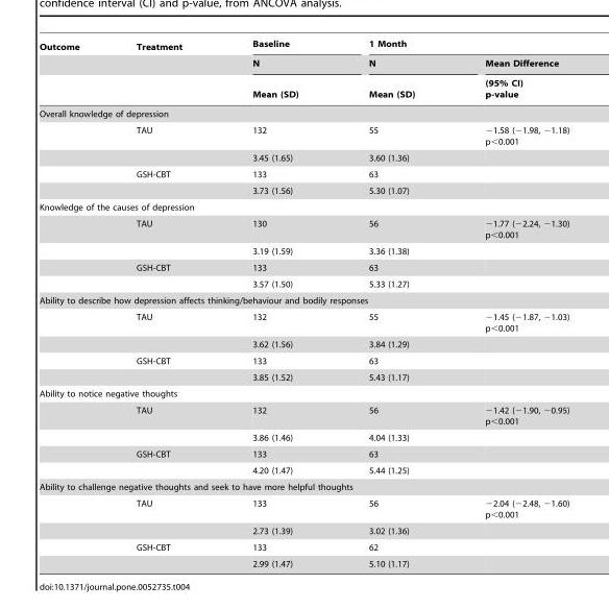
<table><thead><tr><td rowspan="3">Outcome</td><td rowspan="3">Treatment</td><td rowspan="3">Baseline N Mean (SD)</td><td colspan="2">1 Month</td></tr><tr><td rowspan="2">N Mean (SD)</td><td rowspan="2">Mean Difference (95% CI) p-value</td></tr><tr></tr></thead><tbody><tr><td colspan="5">Overall knowledge of depression</td></tr><tr><td></td><td>TAU</td><td>132</td><td>55</td><td>−1.58 (−1.98, −1.18) p&lt;0.001</td></tr><tr><td></td><td></td><td>3.45 (1.65)</td><td>3.60 (1.36)</td><td></td></tr><tr><td></td><td>GSH-CBT</td><td>133</td><td>63</td><td></td></tr><tr><td></td><td></td><td>3.73 (1.56)</td><td>5.30 (1.07)</td><td></td></tr><tr><td colspan="5">Knowledge of the causes of depression</td></tr><tr><td></td><td>TAU</td><td>130</td><td>56</td><td>−1.77 (−2.24, −1.30) p&lt;0.001</td></tr><tr><td></td><td></td><td>3.19 (1.59)</td><td>3.36 (1.38)</td><td></td></tr><tr><td></td><td>GSH-CBT</td><td>133</td><td>63</td><td></td></tr><tr><td></td><td></td><td>3.57 (1.50)</td><td>5.33 (1.27)</td><td></td></tr><tr><td colspan="5">Ability to describe how depression affects thinking/behaviour and bodily responses</td></tr><tr><td></td><td>TAU</td><td>132</td><td>55</td><td>−1.45 (−1.87, −1.03) p&lt;0.001</td></tr><tr><td></td><td></td><td>3.62 (1.56)</td><td>3.84 (1.29)</td><td></td></tr><tr><td></td><td>GSH-CBT</td><td>133</td><td>63</td><td></td></tr><tr><td></td><td></td><td>3.85 (1.52)</td><td>5.43 (1.17)</td><td></td></tr><tr><td colspan="5">Ability to notice negative thoughts</td></tr><tr><td></td><td>TAU</td><td>132</td><td>56</td><td>−1.42 (−1.90, −0.95) p&lt;0.001</td></tr><tr><td></td><td></td><td>3.86 (1.46)</td><td>4.04 (1.33)</td><td></td></tr><tr><td></td><td>GSH-CBT</td><td>133</td><td>63</td><td></td></tr><tr><td></td><td></td><td>4.20 (1.47)</td><td>5.44 (1.25)</td><td></td></tr><tr><td colspan="5">Ability to challenge negative thoughts and seek to have more helpful thoughts</td></tr><tr><td></td><td>TAU</td><td>133</td><td>56</td><td>−2.04 (−2.48, −1.60) p&lt;0.001</td></tr><tr><td></td><td></td><td>2.73 (1.39)</td><td>3.02 (1.36)</td><td></td></tr><tr><td></td><td>GSH-CBT</td><td>133</td><td>62</td><td></td></tr><tr><td></td><td></td><td>2.99 (1.47)</td><td>5.10 (1.17)</td><td></td></tr></tbody></table>